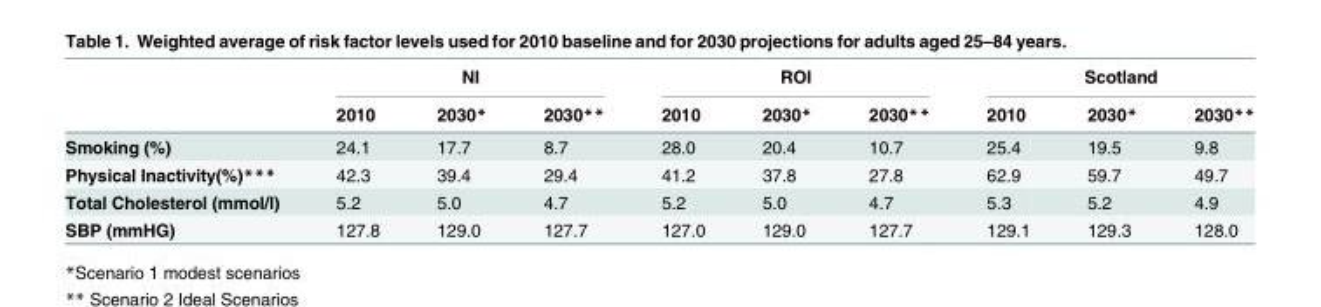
<table><thead><tr><td rowspan="2"></td><td colspan="3">NI</td><td colspan="3">ROI</td><td colspan="3">Scotland</td></tr><tr><td>2010</td><td>2030*</td><td>2030**</td><td>2010</td><td>2030*</td><td>2030**</td><td>2010</td><td>2030*</td><td>2030**</td></tr></thead><tbody><tr><td>Smoking (%)</td><td>24.1</td><td>17.7</td><td>8.7</td><td>28.0</td><td>20.4</td><td>10.7</td><td>25.4</td><td>19.5</td><td>9.8</td></tr><tr><td>Physical Inactivity(%)***</td><td>42.3</td><td>39.4</td><td>29.4</td><td>41.2</td><td>37.8</td><td>27.8</td><td>62.9</td><td>59.7</td><td>49.7</td></tr><tr><td>Total Cholesterol (mmol/l)</td><td>5.2</td><td>5.0</td><td>4.7</td><td>5.2</td><td>5.0</td><td>4.7</td><td>5.3</td><td>5.2</td><td>4.9</td></tr><tr><td>SBP (mmHG)</td><td>127.8</td><td>129.0</td><td>127.7</td><td>127.0</td><td>129.0</td><td>127.7</td><td>129.1</td><td>129.3</td><td>128.0</td></tr></tbody></table>